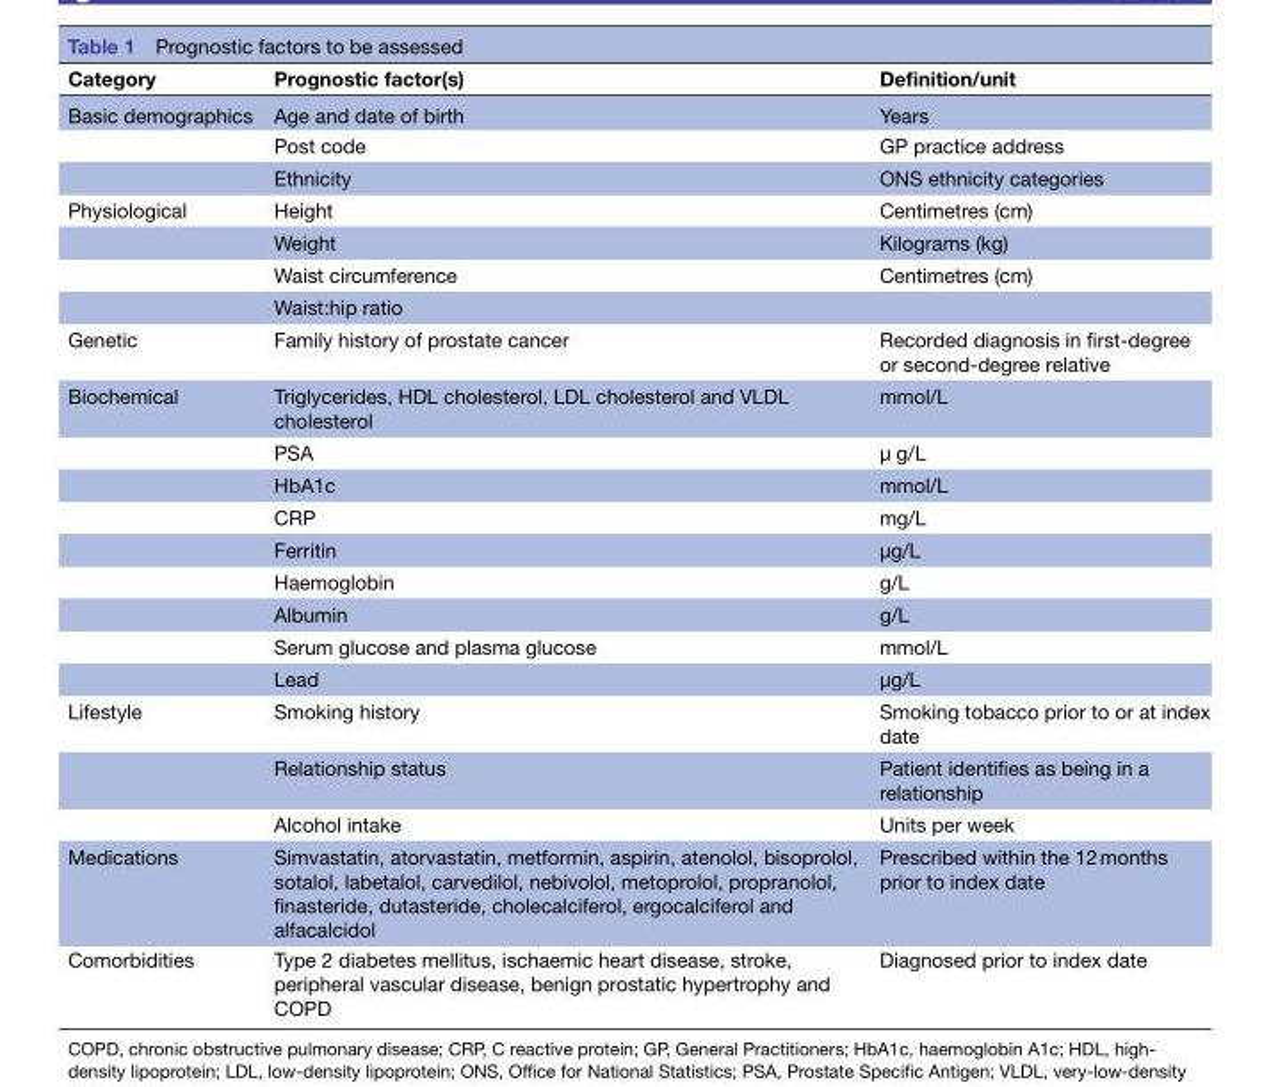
<table><thead><tr><td>Category</td><td>Prognostic factor(s)</td><td>Definition/unit</td></tr></thead><tbody><tr><td rowspan="3">Basic demographics</td><td>Age and date of birth</td><td>Years</td></tr><tr><td>Post code</td><td>GP practice address</td></tr><tr><td>Ethnicity</td><td>ONS ethnicity categories</td></tr><tr><td rowspan="4">Physiological</td><td>Height</td><td>Centimetres (cm)</td></tr><tr><td>Weight</td><td>Kilograms (kg)</td></tr><tr><td>Waist circumference</td><td>Centimetres (cm)</td></tr><tr><td>Waist:hip ratio</td><td></td></tr><tr><td>Genetic</td><td>Family history of prostate cancer</td><td>Recorded diagnosis in first-degree or second-degree relative</td></tr><tr><td rowspan="9">Biochemical</td><td>Triglycerides, HDL cholesterol, LDL cholesterol and VLDL cholesterol</td><td>mmol/L</td></tr><tr><td>PSA</td><td>μ g/L</td></tr><tr><td>HbA1c</td><td>mmol/L</td></tr><tr><td>CRP</td><td>mg/L</td></tr><tr><td>Ferritin</td><td>μg/L</td></tr><tr><td>Haemoglobin</td><td>g/L</td></tr><tr><td>Albumin</td><td>g/L</td></tr><tr><td>Serum glucose and plasma glucose</td><td>mmol/L</td></tr><tr><td>Lead</td><td>μg/L</td></tr><tr><td rowspan="3">Lifestyle</td><td>Smoking history</td><td>Smoking tobacco prior to or at index date</td></tr><tr><td>Relationship status</td><td>Patient identifies as being in a relationship</td></tr><tr><td>Alcohol intake</td><td>Units per week</td></tr><tr><td>Medications</td><td>Simvastatin, atorvastatin, metformin, aspirin, atenolol, bisoprolol, sotalol, labetalol, carvedilol, nebivolol, metoprolol, propranolol, finasteride, dutasteride, cholecalciferol, ergocalciferol and alfacalcidol</td><td>Prescribed within the 12 months prior to index date</td></tr><tr><td>Comorbidities</td><td>Type 2 diabetes mellitus, ischaemic heart disease, stroke, peripheral vascular disease, benign prostatic hypertrophy and COPD</td><td>Diagnosed prior to index date</td></tr></tbody></table>